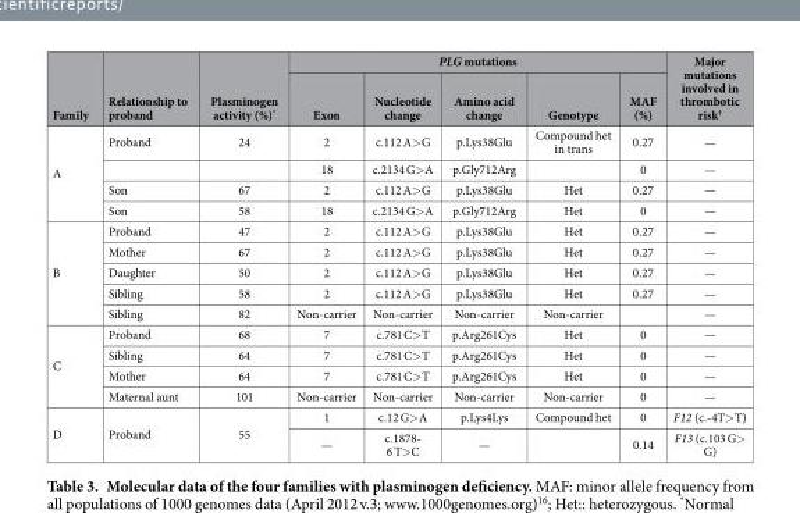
<table><thead><tr><td rowspan="2">Family</td><td rowspan="2">Relationship to proband</td><td rowspan="2">Plasminogen activity (%)*</td><td colspan="5">PLG mutations</td><td rowspan="2">Major mutations involved in thrombotic risk†</td></tr><tr><td>Exon</td><td>Nucleotide change</td><td>Amino acid change</td><td>Genotype</td><td>MAF (%)</td></tr></thead><tbody><tr><td rowspan="4">A</td><td>Proband</td><td>24</td><td>2</td><td>c.112 A&gt; G</td><td>p.Lys38Glu</td><td>Compound het in trans</td><td>0.27</td><td>—</td></tr><tr><td></td><td></td><td>18</td><td>c.2134 G&gt; A</td><td>p.Gly712Arg</td><td></td><td>0</td><td>—</td></tr><tr><td>Son</td><td>67</td><td>2</td><td>c.112 A&gt; G</td><td>p.Lys38Glu</td><td>Het</td><td>0.27</td><td>—</td></tr><tr><td>Son</td><td>58</td><td>18</td><td>c.2134 G&gt; A</td><td>p.Gly712Arg</td><td>Het</td><td>0</td><td>—</td></tr><tr><td rowspan="5">B</td><td>Proband</td><td>47</td><td>2</td><td>c.112 A&gt; G</td><td>p.Lys38Glu</td><td>Het</td><td>0.27</td><td>—</td></tr><tr><td>Mother</td><td>67</td><td>2</td><td>c.112 A&gt; G</td><td>p.Lys38Glu</td><td>Het</td><td>0.27</td><td>—</td></tr><tr><td>Daughter</td><td>50</td><td>2</td><td>c.112 A&gt; G</td><td>p.Lys38Glu</td><td>Het</td><td>0.27</td><td>—</td></tr><tr><td>Sibling</td><td>58</td><td>2</td><td>c.112 A&gt; G</td><td>p.Lys38Glu</td><td>Het</td><td>0.27</td><td>—</td></tr><tr><td>Sibling</td><td>82</td><td>Non-carrier</td><td>Non-carrier</td><td>Non-carrier</td><td>Non-carrier</td><td></td><td>—</td></tr><tr><td rowspan="4">C</td><td>Proband</td><td>68</td><td>7</td><td>c.781 C&gt; T</td><td>p.Arg261Cys</td><td>Het</td><td>0</td><td>—</td></tr><tr><td>Sibling</td><td>64</td><td>7</td><td>c.781 C&gt; T</td><td>p.Arg261Cys</td><td>Het</td><td>0</td><td>—</td></tr><tr><td>Mother</td><td>64</td><td>7</td><td>c.781 C&gt; T</td><td>p.Arg261Cys</td><td>Het</td><td>0</td><td>—</td></tr><tr><td>Maternal aunt</td><td>101</td><td>Non-carrier</td><td>Non-carrier</td><td>Non-carrier</td><td>Non-carrier</td><td>0</td><td>—</td></tr><tr><td rowspan="2">D</td><td rowspan="2">Proband</td><td rowspan="2">55</td><td>1</td><td>c.12 G&gt; A</td><td>p.Lys4Lys</td><td>Compound het</td><td>0</td><td>F12 (c.-4T&gt; T)</td></tr><tr><td>—</td><td>c.1878- 6 T&gt; C</td><td>—</td><td></td><td>0.14</td><td>F13 (c.103 G&gt; G)</td></tr></tbody></table>